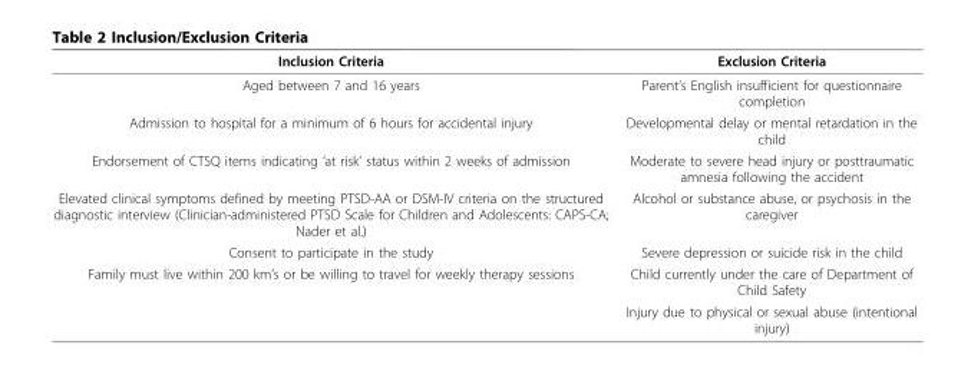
<table><thead><tr><td>Inclusion Criteria</td><td>Exclusion Criteria</td></tr></thead><tbody><tr><td>Aged between 7 and 16 years</td><td>Parent’s English insufficient for questionnaire completion</td></tr><tr><td>Admission to hospital for a minimum of 6 hours for accidental injury</td><td>Developmental delay or mental retardation in the child</td></tr><tr><td>Endorsement of CTSQ items indicating ‘at risk’ status within 2 weeks of admission</td><td>Moderate to severe head injury or posttraumatic amnesia following the accident</td></tr><tr><td>Elevated clinical symptoms defined by meeting PTSD-AA or DSM-IV criteria on the structured diagnostic interview (Clinician-administered PTSD Scale for Children and Adolescents: CAPS-CA; Nader et al.)</td><td>Alcohol or substance abuse, or psychosis in the caregiver</td></tr><tr><td>Consent to participate in the study</td><td>Severe depression or suicide risk in the child</td></tr><tr><td rowspan="2">Family must live within 200 km’s or be willing to travel for weekly therapy sessions</td><td>Child currently under the care of Department of Child Safety</td></tr><tr><td>Injury due to physical or sexual abuse (intentional injury)</td></tr></tbody></table>